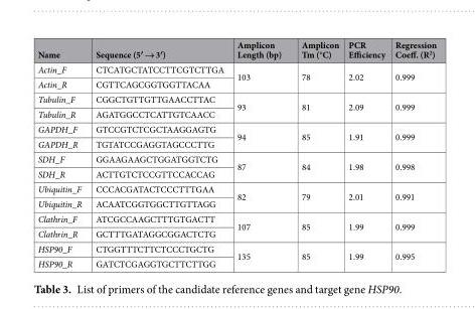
<table><thead><tr><td>Name</td><td>Sequence (5′ → 3′)</td><td>Amplicon Length (bp)</td><td>Amplicon Tm (°C)</td><td>PCR Efficiency</td><td>Regression Coeff. (R<sup>2</sup>)</td></tr></thead><tbody><tr><td>Actin_F</td><td>CTCATGCTATCCTTCGTCTTGA</td><td rowspan="2">103</td><td rowspan="2">78</td><td rowspan="2">2.02</td><td rowspan="2">0.999</td></tr><tr><td>Actin_R</td><td>CGTTCAGCGGTGGTTACAA</td></tr><tr><td>Tubulin_F</td><td>CGGCTGTTGTTGAACCTTAC</td><td rowspan="2">93</td><td rowspan="2">81</td><td rowspan="2">2.09</td><td rowspan="2">0.999</td></tr><tr><td>Tubulin_R</td><td>AGATGGCCTCATTGTCAACC</td></tr><tr><td>GAPDH_F</td><td>GTCCGTCTCGCTAAGGAGTG</td><td rowspan="2">94</td><td rowspan="2">85</td><td rowspan="2">1.91</td><td rowspan="2">0.999</td></tr><tr><td>GAPDH_R</td><td>TGTATCCGAGGTAGCCCTTG</td></tr><tr><td>SDH_F</td><td>GGAAGAAGCTGGATGGTCTG</td><td rowspan="2">87</td><td rowspan="2">84</td><td rowspan="2">1.98</td><td rowspan="2">0.998</td></tr><tr><td>SDH_R</td><td>ACTTGTCTCCGTTCCACCAG</td></tr><tr><td>Ubiquitin_F</td><td>CCCACGATACTCCCTTTGAA</td><td rowspan="2">82</td><td rowspan="2">79</td><td rowspan="2">2.01</td><td rowspan="2">0.991</td></tr><tr><td>Ubiquitin_R</td><td>ACAATCGGTGGCTTGTTAGG</td></tr><tr><td>Clathrin_F</td><td>ATCGCCAAGCTTTGTGACTT</td><td rowspan="2">107</td><td rowspan="2">85</td><td rowspan="2">1.99</td><td rowspan="2">0.999</td></tr><tr><td>Clathrin_R</td><td>GCTTTGATAGGCGGACTCTG</td></tr><tr><td>HSP90_F</td><td>CTGGTTTCTTCTCCCTGCTG</td><td rowspan="2">135</td><td rowspan="2">85</td><td rowspan="2">1.99</td><td rowspan="2">0.995</td></tr><tr><td>HSP90_R</td><td>GATCTCGAGGTGCTTCTTGG</td></tr></tbody></table>